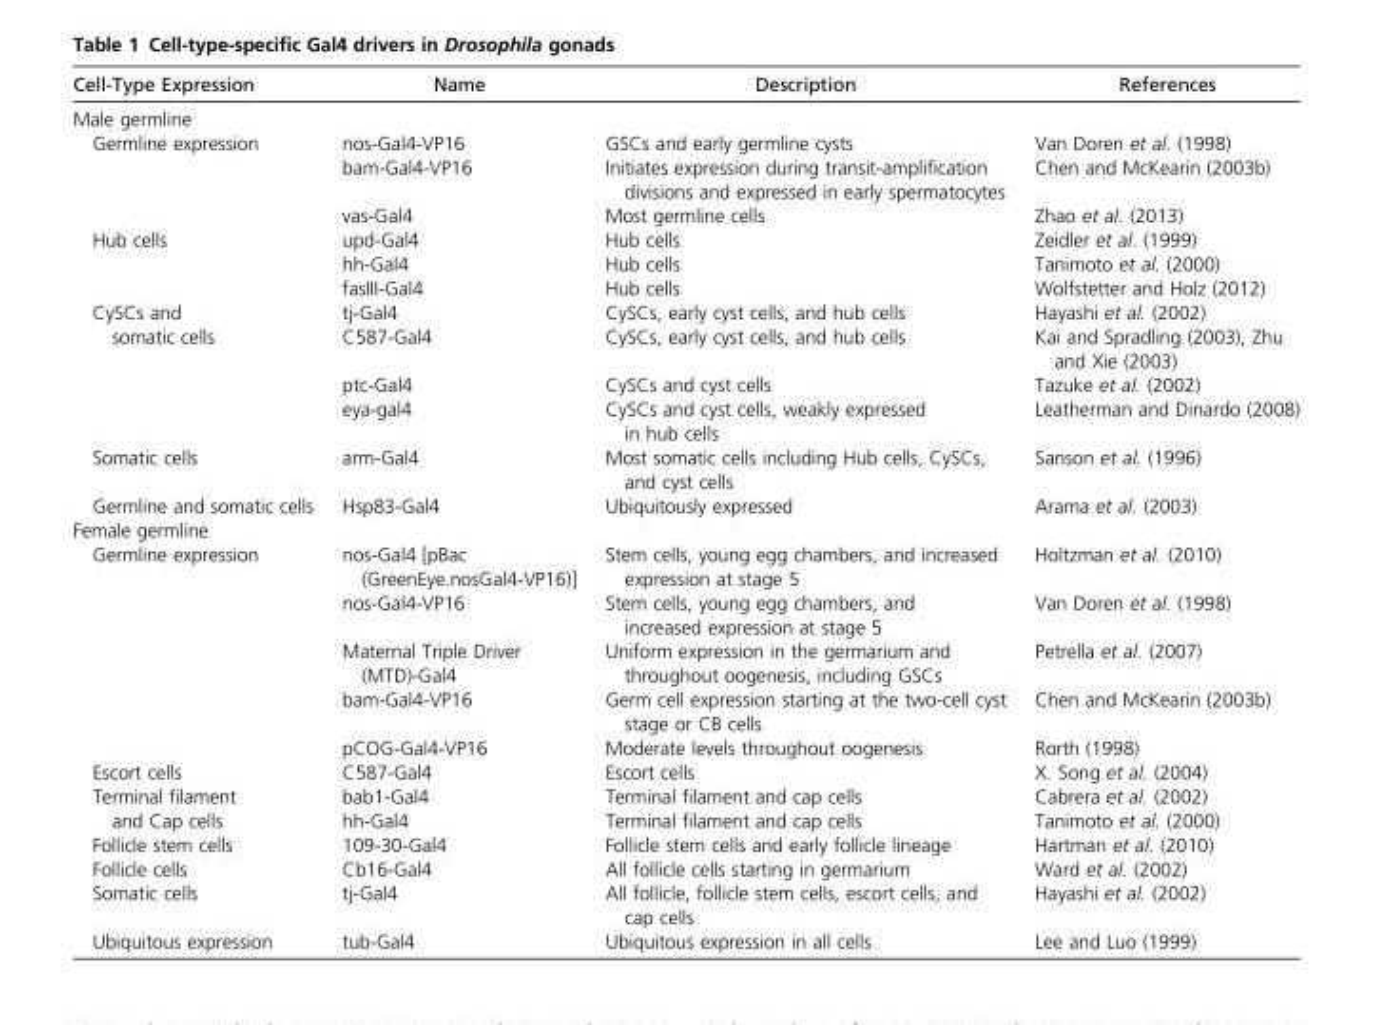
<table><thead><tr><td>Cell-Type Expression</td><td>Name</td><td>Description</td><td>References</td></tr></thead><tbody><tr><td colspan="4">Male germline</td></tr><tr><td rowspan="3">Germline expression</td><td>nos-Gal4-VP16</td><td>GSCs and early germline cysts</td><td>Van Doren et al. (1998)</td></tr><tr><td>bam-Gal4-VP16</td><td>Initiates expression during transit-amplification divisions and expressed in early spermatocytes</td><td>Chen and McKearin (2003b)</td></tr><tr><td>vas-Gal4</td><td>Most germline cells</td><td>Zhao et al. (2013)</td></tr><tr><td rowspan="3">Hub cells</td><td>upd-Gal4</td><td>Hub cells</td><td>Zeidler et al. (1999)</td></tr><tr><td>hh-Gal4</td><td>Hub cells</td><td>Tanimoto et al. (2000)</td></tr><tr><td>fasIII-Gal4</td><td>Hub cells</td><td>Wolfstetter and Holz (2012)</td></tr><tr><td rowspan="4">CySCs and somatic cells</td><td>tj-Gal4</td><td>CySCs, early cyst cells, and hub cells</td><td>Hayashi et al. (2002)</td></tr><tr><td>C587-Gal4</td><td>CySCs, early cyst cells, and hub cells</td><td>Kai and Spradling (2003), Zhu and Xie (2003)</td></tr><tr><td>ptc-Gal4</td><td>CySCs and cyst cells</td><td>Tazuke et al. (2002)</td></tr><tr><td>eya-gal4</td><td>CySCs and cyst cells, weakly expressed in hub cells</td><td>Leatherman and Dinardo (2008)</td></tr><tr><td>Somatic cells</td><td>arm-Gal4</td><td>Most somatic cells including Hub cells, CySCs, and cyst cells</td><td>Sanson et al. (1996)</td></tr><tr><td>Germline and somatic cells</td><td>Hsp83-Gal4</td><td>Ubiquitously expressed</td><td>Arama et al. (2003)</td></tr><tr><td colspan="4">Female germline</td></tr><tr><td rowspan="5">Germline expression</td><td>nos-Gal4 [pBac (GreenEye.nosGal4-VP16)]</td><td>Stem cells, young egg chambers, and increased expression at stage 5</td><td>Holtzman et al. (2010)</td></tr><tr><td>nos-Gal4-VP16</td><td>Stem cells, young egg chambers, and increased expression at stage 5</td><td>Van Doren et al. (1998)</td></tr><tr><td>Maternal Triple Driver (MTD)-Gal4</td><td>Uniform expression in the germarium and throughout oogenesis, including GSCs</td><td>Petrella et al. (2007)</td></tr><tr><td>bam-Gal4-VP16</td><td>Germ cell expression starting at the two-cell cyst stage or CB cells</td><td>Chen and McKearin (2003b)</td></tr><tr><td>pCOG-Gal4-VP16</td><td>Moderate levels throughout oogenesis</td><td>Rorth (1998)</td></tr><tr><td>Escort cells</td><td>C587-Gal4</td><td>Escort cells</td><td>X. Song et al. (2004)</td></tr><tr><td rowspan="2">Terminal filament and Cap cells</td><td>bab1-Gal4</td><td>Terminal filament and cap cells</td><td>Cabrera et al. (2002)</td></tr><tr><td>hh-Gal4</td><td>Terminal filament and cap cells</td><td>Tanimoto et al. (2000)</td></tr><tr><td>Follicle stem cells</td><td>109-30-Gal4</td><td>Follicle stem cells and early follicle lineage</td><td>Hartman et al. (2010)</td></tr><tr><td>Follicle cells</td><td>Cb16-Gal4</td><td>All follicle cells starting in germarium</td><td>Ward et al. (2002)</td></tr><tr><td>Somatic cells</td><td>tj-Gal4</td><td>All follicle, follicle stem cells, escort cells, and cap cells</td><td>Hayashi et al. (2002)</td></tr><tr><td>Ubiquitous expression</td><td>tub-Gal4</td><td>Ubiquitous expression in all cells</td><td>Lee and Luo (1999)</td></tr></tbody></table>